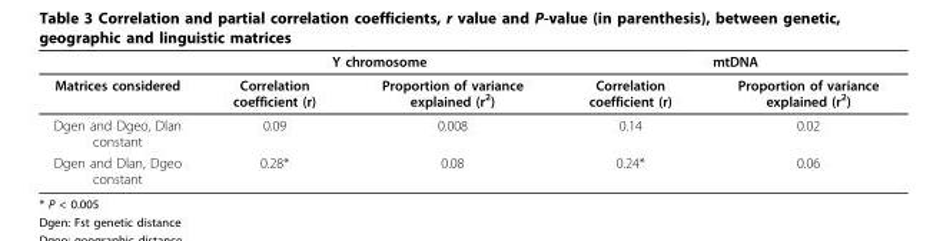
<table><thead><tr><td rowspan="2">Matrices considered</td><td colspan="2">Y chromosome</td><td colspan="2">mtDNA</td></tr><tr><td>Correlation coefficient (r)</td><td>Proportion of variance explained (r<sup>2</sup>)</td><td>Correlation coefficient (r)</td><td>Proportion of variance explained (r<sup>2</sup>)</td></tr></thead><tbody><tr><td>Dgen and Dgeo, Dlan constant</td><td>0.09</td><td>0.008</td><td>0.14</td><td>0.02</td></tr><tr><td>Dgen and Dlan, Dgeo constant</td><td>0.28*</td><td>0.08</td><td>0.24*</td><td>0.06</td></tr></tbody></table>